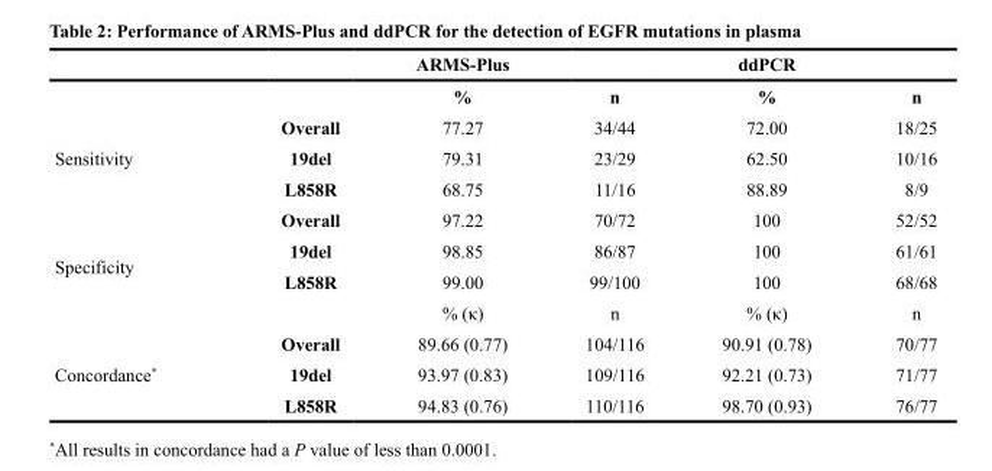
<table><thead><tr><td></td><td></td><td>ARMS-Plus</td><td></td><td>ddPCR</td><td></td></tr></thead><tbody><tr><td></td><td></td><td>%</td><td>n</td><td>%</td><td>n</td></tr><tr><td rowspan="3">Sensitivity</td><td>Overall</td><td>77.27</td><td>34/44</td><td>72.00</td><td>18/25</td></tr><tr><td>19del</td><td>79.31</td><td>23/29</td><td>62.50</td><td>10/16</td></tr><tr><td>L858R</td><td>68.75</td><td>11/16</td><td>88.89</td><td>8/9</td></tr><tr><td rowspan="4">Specificity</td><td>Overall</td><td>97.22</td><td>70/72</td><td>100</td><td>52/52</td></tr><tr><td>19del</td><td>98.85</td><td>86/87</td><td>100</td><td>61/61</td></tr><tr><td>L858R</td><td>99.00</td><td>99/100</td><td>100</td><td>68/68</td></tr><tr><td></td><td>% (κ)</td><td>n</td><td>% (κ)</td><td>n</td></tr><tr><td rowspan="3">Concordance*</td><td>Overall</td><td>89.66 (0.77)</td><td>104/116</td><td>90.91 (0.78)</td><td>70/77</td></tr><tr><td>19del</td><td>93.97 (0.83)</td><td>109/116</td><td>92.21 (0.73)</td><td>71/77</td></tr><tr><td>L858R</td><td>94.83 (0.76)</td><td>110/116</td><td>98.70 (0.93)</td><td>76/77</td></tr></tbody></table>